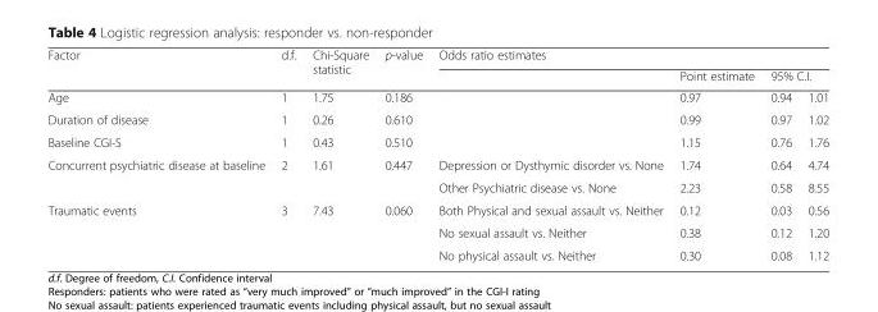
<table><thead><tr><td rowspan="3">Factor Age</td><td rowspan="3">d.f. 1</td><td rowspan="3">Chi-Square statistic 1.75</td><td rowspan="3">p-value 0.186</td><td colspan="4">Odds ratio estimates</td></tr><tr><td rowspan="2"></td><td rowspan="2">Point estimate 0.97</td><td colspan="2">95% C.I.</td></tr><tr><td>0.94</td><td>1.01</td></tr></thead><tbody><tr><td>Duration of disease</td><td>1</td><td>0.26</td><td>0.610</td><td></td><td>0.99</td><td>0.97</td><td>1.02</td></tr><tr><td>Baseline CGI-S</td><td>1</td><td>0.43</td><td>0.510</td><td></td><td>1.15</td><td>0.76</td><td>1.76</td></tr><tr><td rowspan="2">Concurrent psychiatric disease at baseline</td><td rowspan="2">2</td><td rowspan="2">1.61</td><td rowspan="2">0.447</td><td>Depression or Dysthymic disorder vs. None</td><td>1.74</td><td>0.64</td><td>4.74</td></tr><tr><td>Other Psychiatric disease vs. None</td><td>2.23</td><td>0.58</td><td>8.55</td></tr><tr><td rowspan="3">Traumatic events</td><td rowspan="3">3</td><td rowspan="3">7.43</td><td rowspan="3">0.060</td><td>Both Physical and sexual assault vs. Neither</td><td>0.12</td><td>0.03</td><td>0.56</td></tr><tr><td>No sexual assault vs. Neither</td><td>0.38</td><td>0.12</td><td>1.20</td></tr><tr><td>No physical assault vs. Neither</td><td>0.30</td><td>0.08</td><td>1.12</td></tr></tbody></table>